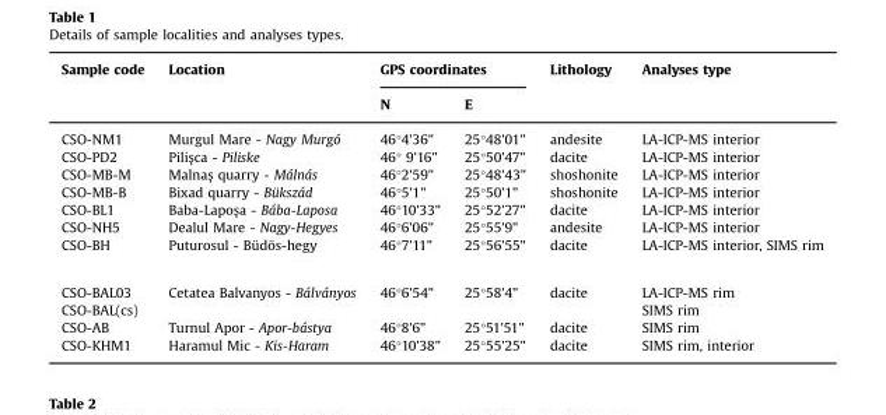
<table><thead><tr><td rowspan="2">Sample code</td><td rowspan="2">Location</td><td colspan="2">GPS coordinates</td><td rowspan="2">Lithology</td><td rowspan="2">Analyses type</td></tr><tr><td>N</td><td>E</td></tr></thead><tbody><tr><td>CSO-NM1</td><td>Murgul Mare - Nagy Murgó</td><td>46°4&#x27;36&quot;</td><td>25°48&#x27;01&quot;</td><td>andesite</td><td>LA-ICP-MS interior</td></tr><tr><td>CSO-PD2</td><td>Pilişca - Piliske</td><td>46° 9&#x27;16&quot;</td><td>25°50&#x27;47&quot;</td><td>dacite</td><td>LA-ICP-MS interior</td></tr><tr><td>CSO-MB-M</td><td>Malnaş quarry - Málnás</td><td>46°2&#x27;59&quot;</td><td>25°48&#x27;43&quot;</td><td>shoshonite</td><td>LA-ICP-MS interior</td></tr><tr><td>CSO-MB-B</td><td>Bixad quarry - Bükszád</td><td>46°5&#x27;1&quot;</td><td>25°50&#x27;1&quot;</td><td>shoshonite</td><td>LA-ICP-MS interior</td></tr><tr><td>CSO-BL1</td><td>Baba-Lapoşa - Bába-Laposa</td><td>46°10&#x27;33&quot;</td><td>25°52&#x27;27&quot;</td><td>dacite</td><td>LA-ICP-MS interior</td></tr><tr><td>CSO-NH5</td><td>Dealul Mare - Nagy-Hegyes</td><td>46°6&#x27;06&quot;</td><td>25°55&#x27;9&quot;</td><td>andesite</td><td>LA-ICP-MS interior</td></tr><tr><td>CSO-BH</td><td>Puturosul - Büdös-hegy</td><td>46°7&#x27;11&quot;</td><td>25°56&#x27;55&quot;</td><td>dacite</td><td>LA-ICP-MS interior, SIMS rim</td></tr><tr><td>CSO-BAL03</td><td rowspan="2">Cetatea Balvanyos - Bálványos</td><td rowspan="2">46°6&#x27;54&quot;</td><td rowspan="2">25°58&#x27;4&quot;</td><td rowspan="2">dacite</td><td>LA-ICP-MS rim</td></tr><tr><td>CSO-BAL(cs)</td><td>SIMS rim</td></tr><tr><td>CSO-AB</td><td>Turnul Apor - Apor-bástya</td><td>46°8&#x27;6&quot;</td><td>25°51&#x27;51&quot;</td><td>dacite</td><td>SIMS rim</td></tr><tr><td>CSO-KHM1</td><td>Haramul Mic - Kis-Haram</td><td>46°10&#x27;38&quot;</td><td>25°55&#x27;25&quot;</td><td>dacite</td><td>SIMS rim, interior</td></tr></tbody></table>